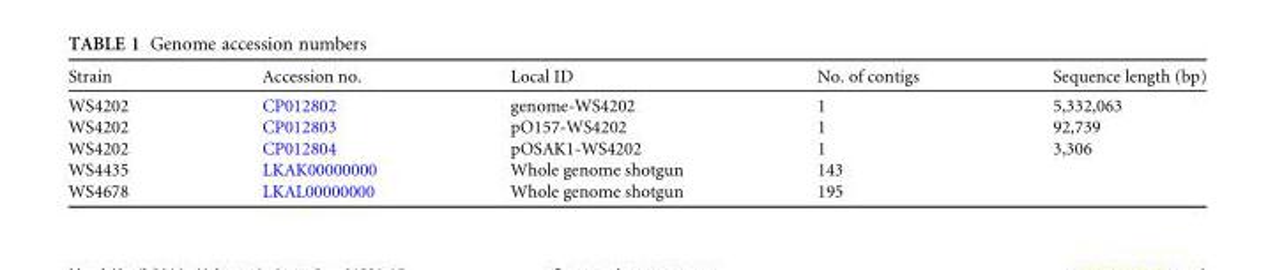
<table><thead><tr><td>Strain</td><td>Accession no.</td><td>Local ID</td><td>No. of contigs</td><td>Sequence length (bp)</td></tr></thead><tbody><tr><td>WS4202</td><td>CP012802</td><td>genome-WS4202</td><td>1</td><td>5,332,063</td></tr><tr><td>WS4202</td><td>CP012803</td><td>pO157-WS4202</td><td>1</td><td>92,739</td></tr><tr><td>WS4202</td><td>CP012804</td><td>pOSAK1-WS4202</td><td>1</td><td>3,306</td></tr><tr><td>WS4435</td><td>LKAK00000000</td><td>Whole genome shotgun</td><td>143</td><td></td></tr><tr><td>WS4678</td><td>LKAL00000000</td><td>Whole genome shotgun</td><td>195</td><td></td></tr></tbody></table>